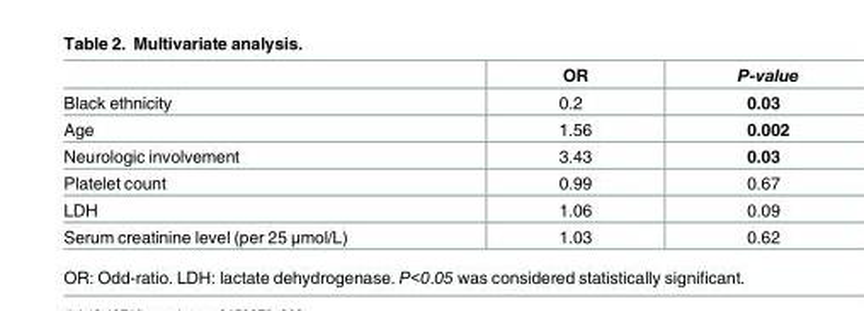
<table><thead><tr><td></td><td>OR</td><td>P-value</td></tr></thead><tbody><tr><td>Black ethnicity</td><td>0.2</td><td>0.03</td></tr><tr><td>Age</td><td>1.56</td><td>0.002</td></tr><tr><td>Neurologic involvement</td><td>3.43</td><td>0.03</td></tr><tr><td>Platelet count</td><td>0.99</td><td>0.67</td></tr><tr><td>LDH</td><td>1.06</td><td>0.09</td></tr><tr><td>Serum creatinine level (per 25 μmol/L)</td><td>1.03</td><td>0.62</td></tr></tbody></table>